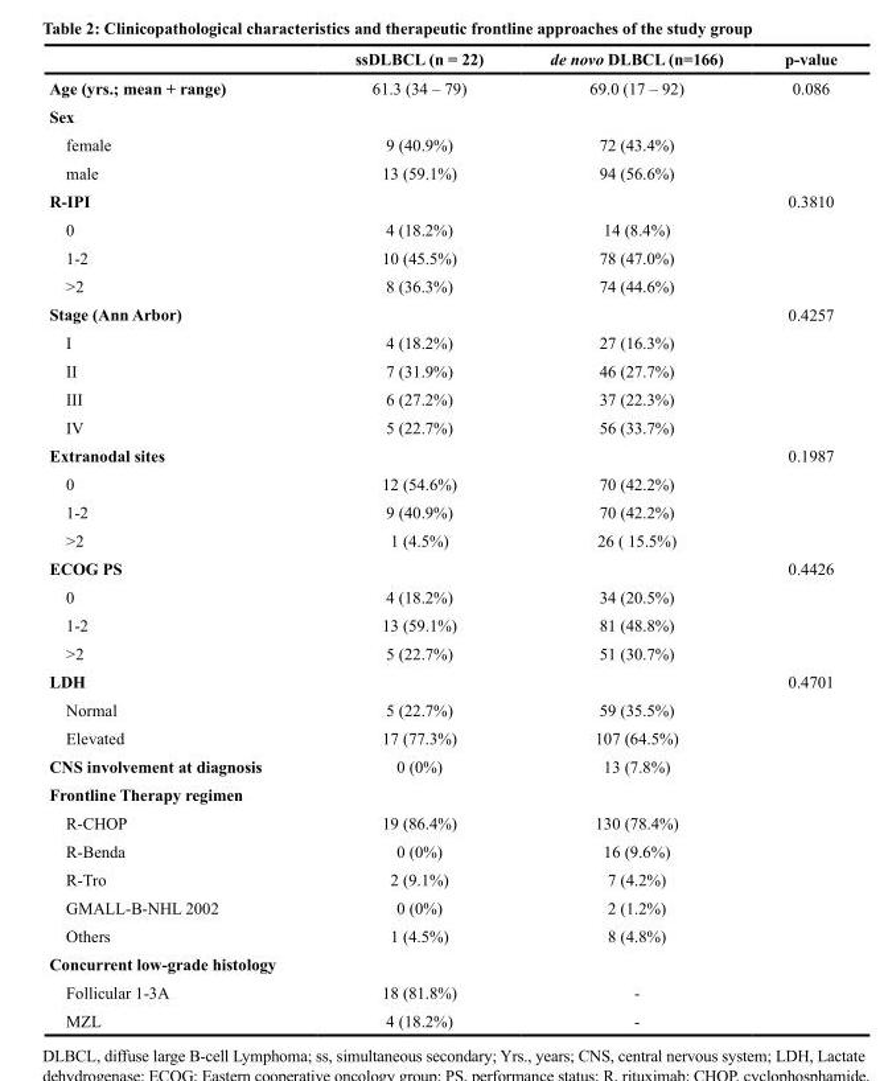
<table><thead><tr><td></td><td>ssDLBCL (n = 22)</td><td>de novo DLBCL (n=166)</td><td>p-value</td></tr></thead><tbody><tr><td>Age (yrs.; mean + range)</td><td>61.3 (34 – 79)</td><td>69.0 (17 – 92)</td><td>0.086</td></tr><tr><td colspan="4">Sex</td></tr><tr><td>female</td><td>9 (40.9%)</td><td>72 (43.4%)</td><td></td></tr><tr><td>male</td><td>13 (59.1%)</td><td>94 (56.6%)</td><td></td></tr><tr><td>R-IPI</td><td></td><td></td><td>0.3810</td></tr><tr><td>0</td><td>4 (18.2%)</td><td>14 (8.4%)</td><td></td></tr><tr><td>1-2</td><td>10 (45.5%)</td><td>78 (47.0%)</td><td></td></tr><tr><td>&gt;2</td><td>8 (36.3%)</td><td>74 (44.6%)</td><td></td></tr><tr><td>Stage (Ann Arbor)</td><td></td><td></td><td>0.4257</td></tr><tr><td>I</td><td>4 (18.2%)</td><td>27 (16.3%)</td><td></td></tr><tr><td>II</td><td>7 (31.9%)</td><td>46 (27.7%)</td><td></td></tr><tr><td>III</td><td>6 (27.2%)</td><td>37 (22.3%)</td><td></td></tr><tr><td>IV</td><td>5 (22.7%)</td><td>56 (33.7%)</td><td></td></tr><tr><td>Extranodal sites</td><td></td><td></td><td>0.1987</td></tr><tr><td>0</td><td>12 (54.6%)</td><td>70 (42.2%)</td><td></td></tr><tr><td>1-2</td><td>9 (40.9%)</td><td>70 (42.2%)</td><td></td></tr><tr><td>&gt;2</td><td>1 (4.5%)</td><td>26 ( 15.5%)</td><td></td></tr><tr><td>ECOG PS</td><td></td><td></td><td>0.4426</td></tr><tr><td>0</td><td>4 (18.2%)</td><td>34 (20.5%)</td><td></td></tr><tr><td>1-2</td><td>13 (59.1%)</td><td>81 (48.8%)</td><td></td></tr><tr><td>&gt;2</td><td>5 (22.7%)</td><td>51 (30.7%)</td><td></td></tr><tr><td>LDH</td><td></td><td></td><td>0.4701</td></tr><tr><td>Normal</td><td>5 (22.7%)</td><td>59 (35.5%)</td><td></td></tr><tr><td>Elevated</td><td>17 (77.3%)</td><td>107 (64.5%)</td><td></td></tr><tr><td>CNS involvement at diagnosis</td><td>0 (0%)</td><td>13 (7.8%)</td><td></td></tr><tr><td colspan="4">Frontline Therapy regimen</td></tr><tr><td>R-CHOP</td><td>19 (86.4%)</td><td>130 (78.4%)</td><td></td></tr><tr><td>R-Benda</td><td>0 (0%)</td><td>16 (9.6%)</td><td></td></tr><tr><td>R-Tro</td><td>2 (9.1%)</td><td>7 (4.2%)</td><td></td></tr><tr><td>GMALL-B-NHL 2002</td><td>0 (0%)</td><td>2 (1.2%)</td><td></td></tr><tr><td>Others</td><td>1 (4.5%)</td><td>8 (4.8%)</td><td></td></tr><tr><td colspan="4">Concurrent low-grade histology</td></tr><tr><td>Follicular 1-3A</td><td>18 (81.8%)</td><td>-</td><td></td></tr><tr><td>MZL</td><td>4 (18.2%)</td><td>-</td><td></td></tr></tbody></table>